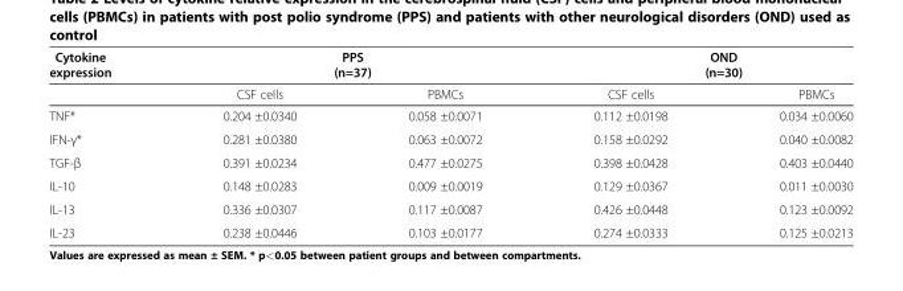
<table><thead><tr><td rowspan="2">Cytokine expression</td><td colspan="2">PPS (n=37)</td><td colspan="2">OND (n=30)</td></tr><tr><td>CSF cells</td><td>PBMCs</td><td>CSF cells</td><td>PBMCs</td></tr></thead><tbody><tr><td>TNF*</td><td>0.204 ±0.0340</td><td>0.058 ±0.0071</td><td>0.112 ±0.0198</td><td>0.034 ±0.0060</td></tr><tr><td>IFN-γ*</td><td>0.281 ±0.0380</td><td>0.063 ±0.0072</td><td>0.158 ±0.0292</td><td>0.040 ±0.0082</td></tr><tr><td>TGF-β</td><td>0.391 ±0.0234</td><td>0.477 ±0.0275</td><td>0.398 ±0.0428</td><td>0.403 ±0.0440</td></tr><tr><td>IL-10</td><td>0.148 ±0.0283</td><td>0.009 ±0.0019</td><td>0.129 ±0.0367</td><td>0.011 ±0.0030</td></tr><tr><td>IL-13</td><td>0.336 ±0.0307</td><td>0.117 ±0.0087</td><td>0.426 ±0.0448</td><td>0.123 ±0.0092</td></tr><tr><td>IL-23</td><td>0.238 ±0.0446</td><td>0.103 ±0.0177</td><td>0.274 ±0.0333</td><td>0.125 ±0.0213</td></tr></tbody></table>